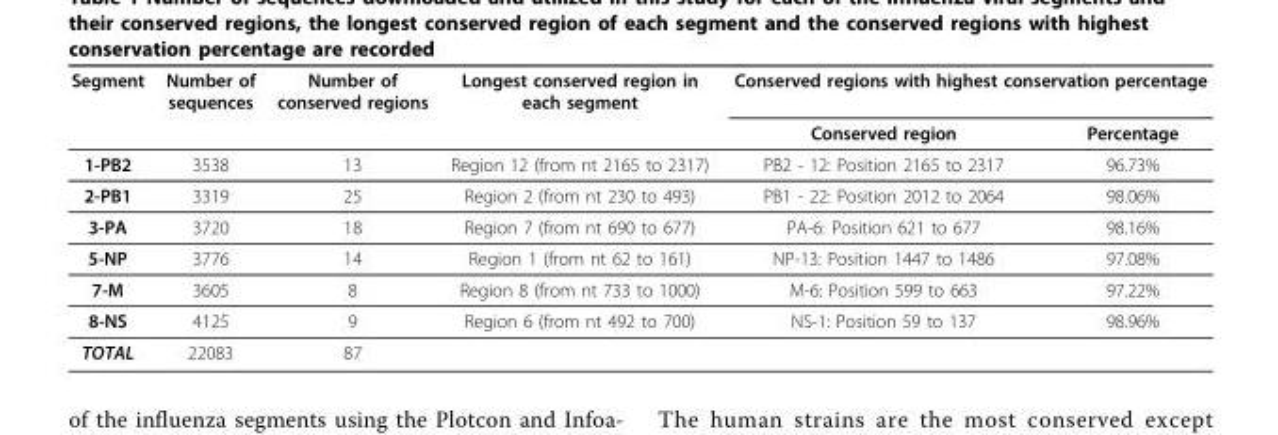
<table><thead><tr><td rowspan="2">Segment</td><td rowspan="2">Number of sequences</td><td rowspan="2">Number of conserved regions</td><td rowspan="2">Longest conserved region in each segment</td><td colspan="2">Conserved regions with highest conservation percentage</td></tr><tr><td>Conserved region</td><td>Percentage</td></tr></thead><tbody><tr><td>1-PB2</td><td>3538</td><td>13</td><td>Region 12 (from nt 2165 to 2317)</td><td>PB2 - 12: Position 2165 to 2317</td><td>96.73%</td></tr><tr><td>2-PB1</td><td>3319</td><td>25</td><td>Region 2 (from nt 230 to 493)</td><td>PB1 - 22: Position 2012 to 2064</td><td>98.06%</td></tr><tr><td>3-PA</td><td>3720</td><td>18</td><td>Region 7 (from nt 690 to 677)</td><td>PA-6: Position 621 to 677</td><td>98.16%</td></tr><tr><td>5-NP</td><td>3776</td><td>14</td><td>Region 1 (from nt 62 to 161)</td><td>NP-13: Position 1447 to 1486</td><td>97.08%</td></tr><tr><td>7-M</td><td>3605</td><td>8</td><td>Region 8 (from nt 733 to 1000)</td><td>M-6: Position 599 to 663</td><td>97.22%</td></tr><tr><td>8-NS</td><td>4125</td><td>9</td><td>Region 6 (from nt 492 to 700)</td><td>NS-1: Position 59 to 137</td><td>98.96%</td></tr><tr><td>TOTAL</td><td>22083</td><td>87</td><td></td><td></td><td></td></tr></tbody></table>